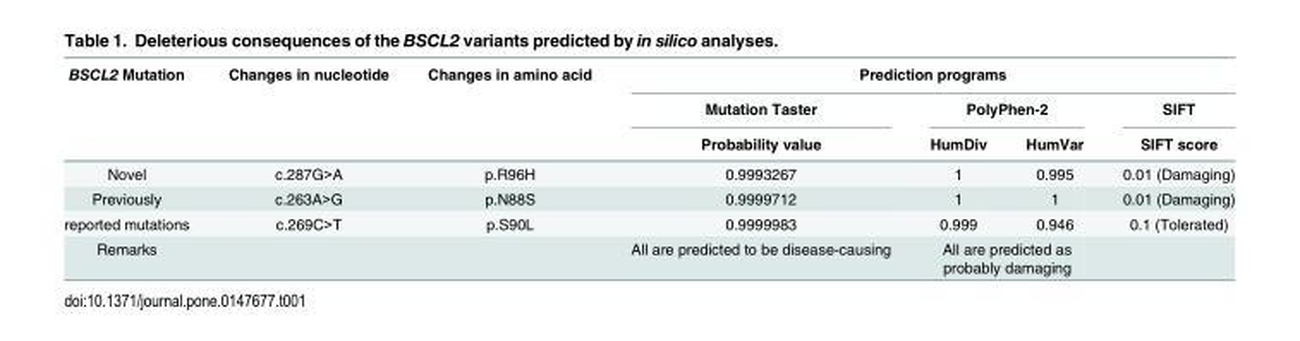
<table><thead><tr><td rowspan="3">BSCL2 Mutation</td><td rowspan="3">Changes in nucleotide</td><td rowspan="3">Changes in amino acid</td><td colspan="4">Prediction programs</td></tr><tr><td rowspan="2">Mutation Taster Probability value</td><td colspan="2">PolyPhen-2</td><td rowspan="2">SIFT SIFT score</td></tr><tr><td>HumDiv</td><td>HumVar</td></tr></thead><tbody><tr><td>Novel</td><td>c.287G&gt;A</td><td>p.R96H</td><td>0.9993267</td><td>1</td><td>0.995</td><td>0.01 (Damaging)</td></tr><tr><td>Previously</td><td>c.263A&gt;G</td><td>p.N88S</td><td>0.9999712</td><td>1</td><td>1</td><td>0.01 (Damaging)</td></tr><tr><td>reported mutations</td><td>c.269C&gt;T</td><td>p.S90L</td><td>0.9999983</td><td>0.999</td><td>0.946</td><td>0.1 (Tolerated)</td></tr><tr><td>Remarks</td><td></td><td></td><td>All are predicted to be disease-causing</td><td colspan="2">All are predicted as probably damaging</td><td></td></tr></tbody></table>